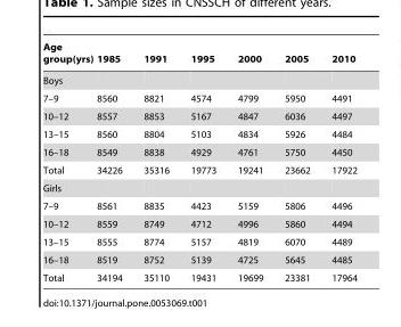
<table><thead><tr><td>Age group(yrs)</td><td>1985</td><td>1991</td><td>1995</td><td>2000</td><td>2005</td><td>2010</td></tr></thead><tbody><tr><td colspan="7">Boys</td></tr><tr><td>7–9</td><td>8560</td><td>8821</td><td>4574</td><td>4799</td><td>5950</td><td>4491</td></tr><tr><td>10–12</td><td>8557</td><td>8853</td><td>5167</td><td>4847</td><td>6036</td><td>4497</td></tr><tr><td>13–15</td><td>8560</td><td>8804</td><td>5103</td><td>4834</td><td>5926</td><td>4484</td></tr><tr><td>16–18</td><td>8549</td><td>8838</td><td>4929</td><td>4761</td><td>5750</td><td>4450</td></tr><tr><td>Total</td><td>34226</td><td>35316</td><td>19773</td><td>19241</td><td>23662</td><td>17922</td></tr><tr><td colspan="7">Girls</td></tr><tr><td>7–9</td><td>8561</td><td>8835</td><td>4423</td><td>5159</td><td>5806</td><td>4496</td></tr><tr><td>10–12</td><td>8559</td><td>8749</td><td>4712</td><td>4996</td><td>5860</td><td>4494</td></tr><tr><td>13–15</td><td>8555</td><td>8774</td><td>5157</td><td>4819</td><td>6070</td><td>4489</td></tr><tr><td>16–18</td><td>8519</td><td>8752</td><td>5139</td><td>4725</td><td>5645</td><td>4485</td></tr><tr><td>Total</td><td>34194</td><td>35110</td><td>19431</td><td>19699</td><td>23381</td><td>17964</td></tr></tbody></table>